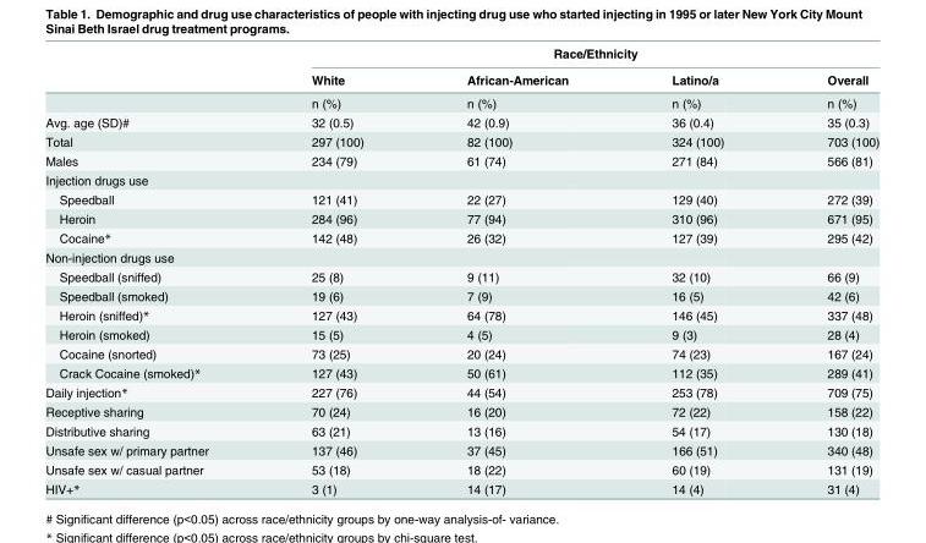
<table><thead><tr><td rowspan="2"></td><td colspan="4">Race/Ethnicity</td></tr><tr><td>White</td><td>African-American</td><td>Latino/a</td><td>Overall</td></tr></thead><tbody><tr><td></td><td>n (%)</td><td>n (%)</td><td>n (%)</td><td>n (%)</td></tr><tr><td>Avg. age (SD)#</td><td>32 (0.5)</td><td>42 (0.9)</td><td>36 (0.4)</td><td>35 (0.3)</td></tr><tr><td>Total</td><td>297 (100)</td><td>82 (100)</td><td>324 (100)</td><td>703 (100)</td></tr><tr><td>Males</td><td>234 (79)</td><td>61 (74)</td><td>271 (84)</td><td>566 (81)</td></tr><tr><td colspan="5">Injection drugs use</td></tr><tr><td>Speedball</td><td>121 (41)</td><td>22 (27)</td><td>129 (40)</td><td>272 (39)</td></tr><tr><td>Heroin</td><td>284 (96)</td><td>77 (94)</td><td>310 (96)</td><td>671 (95)</td></tr><tr><td>Cocaine*</td><td>142 (48)</td><td>26 (32)</td><td>127 (39)</td><td>295 (42)</td></tr><tr><td colspan="5">Non-injection drugs use</td></tr><tr><td>Speedball (sniffed)</td><td>25 (8)</td><td>9 (11)</td><td>32 (10)</td><td>66 (9)</td></tr><tr><td>Speedball (smoked)</td><td>19 (6)</td><td>7 (9)</td><td>16 (5)</td><td>42 (6)</td></tr><tr><td>Heroin (sniffed)*</td><td>127 (43)</td><td>64 (78)</td><td>146 (45)</td><td>337 (48)</td></tr><tr><td>Heroin (smoked)</td><td>15 (5)</td><td>4 (5)</td><td>9 (3)</td><td>28 (4)</td></tr><tr><td>Cocaine (snorted)</td><td>73 (25)</td><td>20 (24)</td><td>74 (23)</td><td>167 (24)</td></tr><tr><td>Crack Cocaine (smoked)*</td><td>127 (43)</td><td>50 (61)</td><td>112 (35)</td><td>289 (41)</td></tr><tr><td>Daily injection*</td><td>227 (76)</td><td>44 (54)</td><td>253 (78)</td><td>709 (75)</td></tr><tr><td>Receptive sharing</td><td>70 (24)</td><td>16 (20)</td><td>72 (22)</td><td>158 (22)</td></tr><tr><td>Distributive sharing</td><td>63 (21)</td><td>13 (16)</td><td>54 (17)</td><td>130 (18)</td></tr><tr><td>Unsafe sex w/ primary partner</td><td>137 (46)</td><td>37 (45)</td><td>166 (51)</td><td>340 (48)</td></tr><tr><td>Unsafe sex w/ casual partner</td><td>53 (18)</td><td>18 (22)</td><td>60 (19)</td><td>131 (19)</td></tr><tr><td>HIV+*</td><td>3 (1)</td><td>14 (17)</td><td>14 (4)</td><td>31 (4)</td></tr></tbody></table>